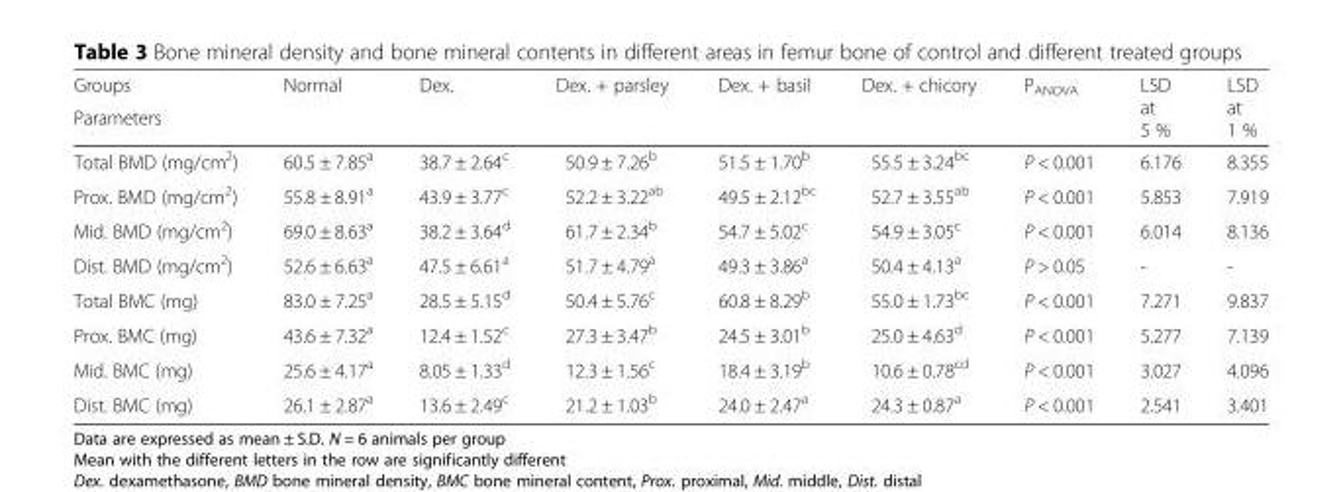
<table><thead><tr><td rowspan="2">Groups Parameters</td><td rowspan="2">Normal</td><td rowspan="2">Dex.</td><td rowspan="2">Dex. + parsley</td><td rowspan="2">Dex. + basil</td><td rowspan="2">Dex. + chicory</td><td rowspan="2">P<sub>ANOVA</sub></td><td rowspan="2">LSD at 5 %</td><td rowspan="2">LSD at 1 %</td></tr><tr></tr></thead><tbody><tr><td>Total BMD (mg/cm<sup>2</sup>)</td><td>60.5 ± 7.85<sup>a</sup></td><td>38.7 ± 2.64<sup>c</sup></td><td>50.9 ± 7.26<sup>b</sup></td><td>51.5 ± 1.70<sup>b</sup></td><td>55.5 ± 3.24<sup>bc</sup></td><td>P &lt; 0.001</td><td>6.176</td><td>8.355</td></tr><tr><td>Prox. BMD (mg/cm<sup>2</sup>)</td><td>55.8 ± 8.91<sup>a</sup></td><td>43.9 ± 3.77<sup>c</sup></td><td>52.2 ± 3.22<sup>ab</sup></td><td>49.5 ± 2.12<sup>bc</sup></td><td>52.7 ± 3.55<sup>ab</sup></td><td>P &lt; 0.001</td><td>5.853</td><td>7.919</td></tr><tr><td>Mid. BMD (mg/cm<sup>2</sup>)</td><td>69.0 ± 8.63<sup>a</sup></td><td>38.2 ± 3.64<sup>d</sup></td><td>61.7 ± 2.34<sup>b</sup></td><td>54.7 ± 5.02<sup>c</sup></td><td>54.9 ± 3.05<sup>c</sup></td><td>P &lt; 0.001</td><td>6.014</td><td>8.136</td></tr><tr><td>Dist. BMD (mg/cm<sup>2</sup>)</td><td>52.6 ± 6.63<sup>a</sup></td><td>47.5 ± 6.61<sup>a</sup></td><td>51.7 ± 4.79<sup>a</sup></td><td>49.3 ± 3.86<sup>a</sup></td><td>50.4 ± 4.13<sup>a</sup></td><td>P &gt; 0.05</td><td>-</td><td>-</td></tr><tr><td>Total BMC (mg)</td><td>83.0 ± 7.25<sup>a</sup></td><td>28.5 ± 5.15<sup>d</sup></td><td>50.4 ± 5.76<sup>c</sup></td><td>60.8 ± 8.29<sup>b</sup></td><td>55.0 ± 1.73<sup>bc</sup></td><td>P &lt; 0.001</td><td>7.271</td><td>9.837</td></tr><tr><td>Prox. BMC (mg)</td><td>43.6 ± 7.32<sup>a</sup></td><td>12.4 ± 1.52<sup>c</sup></td><td>27.3 ± 3.47<sup>b</sup></td><td>24.5 ± 3.01<sup>b</sup></td><td>25.0 ± 4.63<sup>d</sup></td><td>P &lt; 0.001</td><td>5.277</td><td>7.139</td></tr><tr><td>Mid. BMC (mg)</td><td>25.6 ± 4.17<sup>a</sup></td><td>8.05 ± 1.33<sup>d</sup></td><td>12.3 ± 1.56<sup>c</sup></td><td>18.4 ± 3.19<sup>b</sup></td><td>10.6 ± 0.78<sup>cd</sup></td><td>P &lt; 0.001</td><td>3.027</td><td>4.096</td></tr><tr><td>Dist. BMC (mg)</td><td>26.1 ± 2.87<sup>a</sup></td><td>13.6 ± 2.49<sup>c</sup></td><td>21.2 ± 1.03<sup>b</sup></td><td>24.0 ± 2.47<sup>a</sup></td><td>24.3 ± 0.87<sup>a</sup></td><td>P &lt; 0.001</td><td>2.541</td><td>3.401</td></tr></tbody></table>